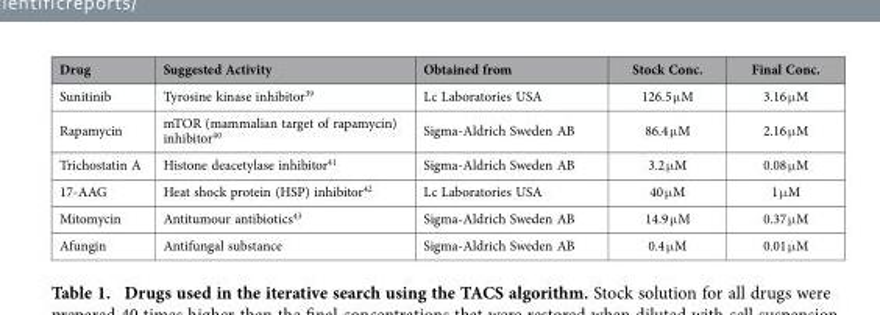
<table><thead><tr><td>Drug</td><td>Suggested Activity</td><td>Obtained from</td><td>Stock Conc.</td><td>Final Conc.</td></tr></thead><tbody><tr><td>Sunitinib</td><td>Tyrosine kinase inhibitor<sup>39</sup></td><td>Lc Laboratories USA</td><td>126.5 μ M</td><td>3.16 μ M</td></tr><tr><td>Rapamycin</td><td>mTOR (mammalian target of rapamycin) inhibitor<sup>40</sup></td><td>Sigma-Aldrich Sweden AB</td><td>86.4 μ M</td><td>2.16 μ M</td></tr><tr><td>Trichostatin A</td><td>Histone deacetylase inhibitor<sup>41</sup></td><td>Sigma-Aldrich Sweden AB</td><td>3.2 μ M</td><td>0.08 μ M</td></tr><tr><td>17-AAG</td><td>Heat shock protein (HSP) inhibitor<sup>42</sup></td><td>Lc Laboratories USA</td><td>40 μ M</td><td>1 μ M</td></tr><tr><td>Mitomycin</td><td>Antitumour antibiotics<sup>43</sup></td><td>Sigma-Aldrich Sweden AB</td><td>14.9 μ M</td><td>0.37 μ M</td></tr><tr><td>Afungin</td><td>Antifungal substance</td><td>Sigma-Aldrich Sweden AB</td><td>0.4 μ M</td><td>0.01 μ M</td></tr></tbody></table>